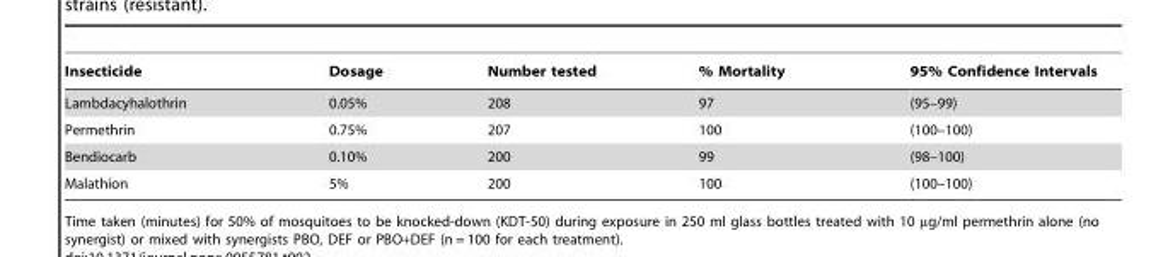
<table><thead><tr><td>Insecticide</td><td>Dosage</td><td>Number tested</td><td>% Mortality</td><td>95% Confidence Intervals</td></tr></thead><tbody><tr><td>Lambdacyhalothrin</td><td>0.05%</td><td>208</td><td>97</td><td>(95–99)</td></tr><tr><td>Permethrin</td><td>0.75%</td><td>207</td><td>100</td><td>(100–100)</td></tr><tr><td>Bendiocarb</td><td>0.10%</td><td>200</td><td>99</td><td>(98–100)</td></tr><tr><td>Malathion</td><td>5%</td><td>200</td><td>100</td><td>(100–100)</td></tr></tbody></table>